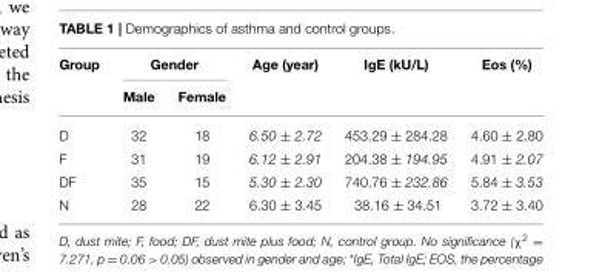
<table><thead><tr><td rowspan="2">Group</td><td colspan="2">Gender</td><td rowspan="2">Age (year)</td><td rowspan="2">IgE (kU/L)</td><td rowspan="2">Eos (%)</td></tr><tr><td>Male</td><td>Female</td></tr></thead><tbody><tr><td>D</td><td>32</td><td>18</td><td>6.50 ± 2.72</td><td>453.29 ± 284.28</td><td>4.60 ± 2.80</td></tr><tr><td>F</td><td>31</td><td>19</td><td>6.12 ± 2.91</td><td>204.38 ± 194.95</td><td>4.91 ± 2.07</td></tr><tr><td>DF</td><td>35</td><td>15</td><td>5.30 ± 2.30</td><td>740.76 ± 232.86</td><td>5.84 ± 3.53</td></tr><tr><td>N</td><td>28</td><td>22</td><td>6.30 ± 3.45</td><td>38.16 ± 34.51</td><td>3.72 ± 3.40</td></tr></tbody></table>